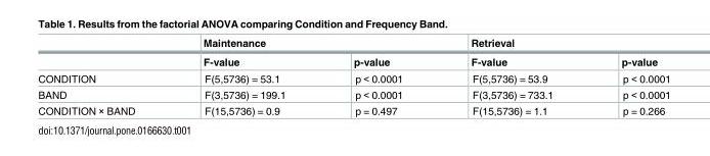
<table><thead><tr><td rowspan="2"></td><td colspan="2">Maintenance</td><td colspan="2">Retrieval</td></tr><tr><td>F-value</td><td>p-value</td><td>F-value</td><td>p-value</td></tr></thead><tbody><tr><td>CONDITION</td><td>F(5,5736) = 53.1</td><td>p &lt; 0.0001</td><td>F(5,5736) = 53.9</td><td>p &lt; 0.0001</td></tr><tr><td>BAND</td><td>F(3,5736) = 199.1</td><td>p &lt; 0.0001</td><td>F(3,5736) = 733.1</td><td>p &lt; 0.0001</td></tr><tr><td>CONDITION × BAND</td><td>F(15,5736) = 0.9</td><td>p = 0.497</td><td>F(15,5736) = 1.1</td><td>p = 0.266</td></tr></tbody></table>